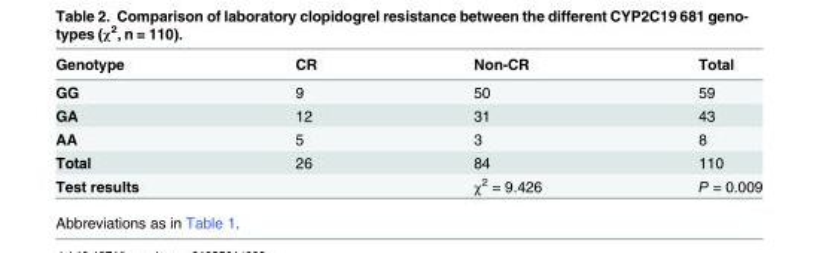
<table><thead><tr><td>Genotype</td><td>CR</td><td>Non-CR</td><td>Total</td></tr></thead><tbody><tr><td>GG</td><td>9</td><td>50</td><td>59</td></tr><tr><td>GA</td><td>12</td><td>31</td><td>43</td></tr><tr><td>AA</td><td>5</td><td>3</td><td>8</td></tr><tr><td>Total</td><td>26</td><td>84</td><td>110</td></tr><tr><td>Test results</td><td></td><td>χ<sup>2</sup> = 9.426</td><td>P = 0.009</td></tr></tbody></table>